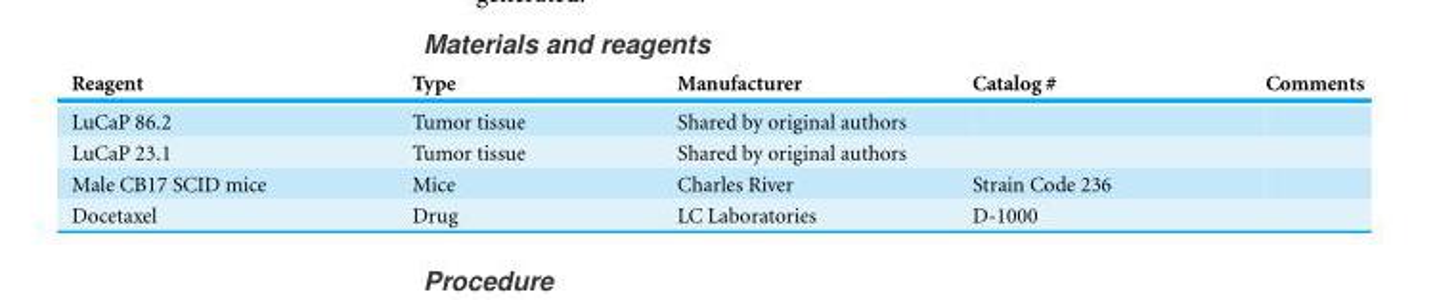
<table><thead><tr><td>Reagent</td><td>Type</td><td>Manufacturer</td><td>Catalog #</td><td>Comments</td></tr></thead><tbody><tr><td>LuCaP 86.2</td><td>Tumor tissue</td><td>Shared by original authors</td><td></td><td></td></tr><tr><td>LuCaP 23.1</td><td>Tumor tissue</td><td>Shared by original authors</td><td></td><td></td></tr><tr><td>Male CB17 SCID mice</td><td>Mice</td><td>Charles River</td><td>Strain Code 236</td><td></td></tr><tr><td>Docetaxel</td><td>Drug</td><td>LC Laboratories</td><td>D-1000</td><td></td></tr></tbody></table>